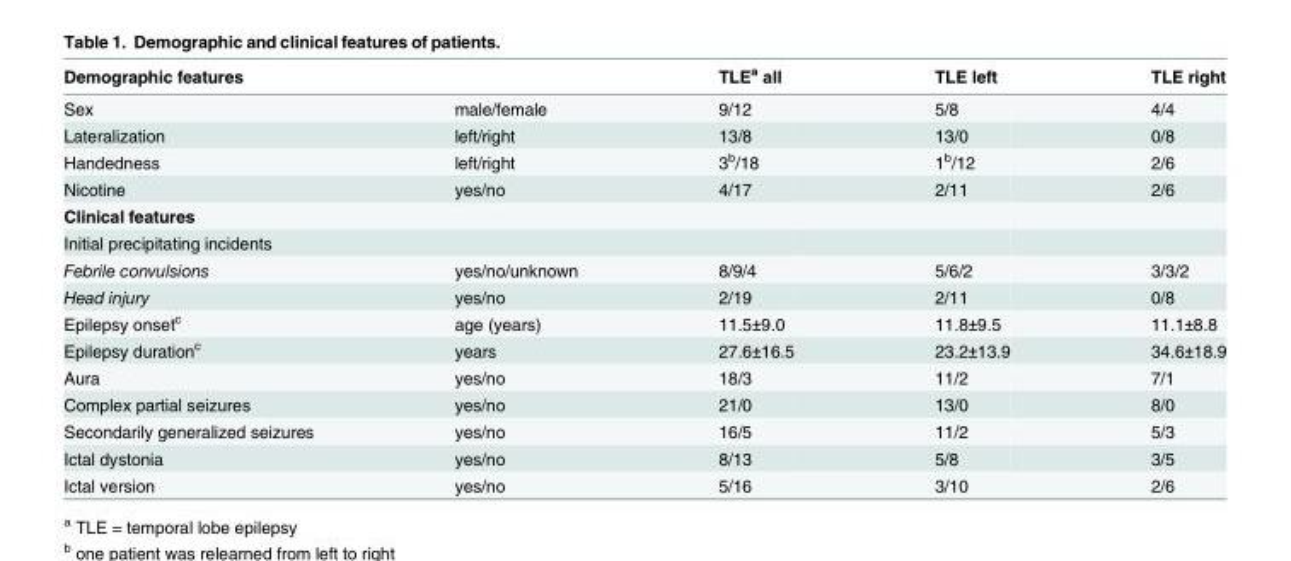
<table><thead><tr><td>Demographic features</td><td></td><td>TLE<sup>a</sup> all</td><td>TLE left</td><td>TLE right</td></tr></thead><tbody><tr><td>Sex</td><td>male/female</td><td>9/12</td><td>5/8</td><td>4/4</td></tr><tr><td>Lateralization</td><td>left/right</td><td>13/8</td><td>13/0</td><td>0/8</td></tr><tr><td>Handedness</td><td>left/right</td><td>3<sup>b</sup>/18</td><td>1<sup>b</sup>/12</td><td>2/6</td></tr><tr><td>Nicotine</td><td>yes/no</td><td>4/17</td><td>2/11</td><td>2/6</td></tr><tr><td colspan="5">Clinical features</td></tr><tr><td colspan="5">Initial precipitating incidents</td></tr><tr><td>Febrile convulsions</td><td>yes/no/unknown</td><td>8/9/4</td><td>5/6/2</td><td>3/3/2</td></tr><tr><td>Head injury</td><td>yes/no</td><td>2/19</td><td>2/11</td><td>0/8</td></tr><tr><td>Epilepsy onset<sup>c</sup></td><td>age (years)</td><td>11.5±9.0</td><td>11.8±9.5</td><td>11.1±8.8</td></tr><tr><td>Epilepsy duration<sup>c</sup></td><td>years</td><td>27.6±16.5</td><td>23.2±13.9</td><td>34.6±18.9</td></tr><tr><td>Aura</td><td>yes/no</td><td>18/3</td><td>11/2</td><td>7/1</td></tr><tr><td>Complex partial seizures</td><td>yes/no</td><td>21/0</td><td>13/0</td><td>8/0</td></tr><tr><td>Secondarily generalized seizures</td><td>yes/no</td><td>16/5</td><td>11/2</td><td>5/3</td></tr><tr><td>Ictal dystonia</td><td>yes/no</td><td>8/13</td><td>5/8</td><td>3/5</td></tr><tr><td>Ictal version</td><td>yes/no</td><td>5/16</td><td>3/10</td><td>2/6</td></tr></tbody></table>